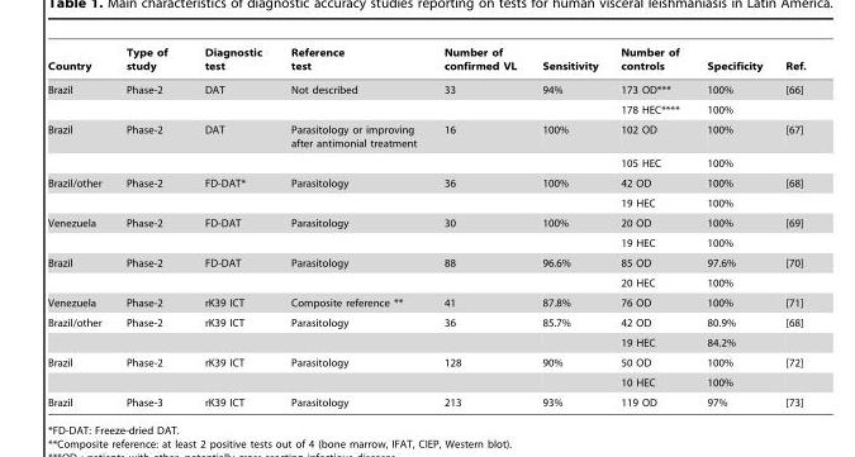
<table><thead><tr><td>Country</td><td>Type of study</td><td>Diagnostic test</td><td>Reference test</td><td>Number of confirmed VL</td><td>Sensitivity</td><td>Number of controls</td><td>Specificity</td><td>Ref.</td></tr></thead><tbody><tr><td rowspan="2">Brazil</td><td>Phase-2</td><td>DAT</td><td>Not described</td><td>33</td><td>94%</td><td>173 OD***</td><td>100%</td><td>[66]</td></tr><tr><td></td><td></td><td></td><td></td><td></td><td>178 HEC****</td><td>100%</td><td></td></tr><tr><td rowspan="2">Brazil</td><td>Phase-2</td><td>DAT</td><td>Parasitology or improving after antimonial treatment</td><td>16</td><td>100%</td><td>102 OD</td><td>100%</td><td>[67]</td></tr><tr><td></td><td></td><td></td><td></td><td></td><td>105 HEC</td><td>100%</td><td></td></tr><tr><td rowspan="2">Brazil/other</td><td>Phase-2</td><td>FD-DAT*</td><td>Parasitology</td><td>36</td><td>100%</td><td>42 OD</td><td>100%</td><td>[68]</td></tr><tr><td></td><td></td><td></td><td></td><td></td><td>19 HEC</td><td>100%</td><td></td></tr><tr><td rowspan="2">Venezuela</td><td>Phase-2</td><td>FD-DAT</td><td>Parasitology</td><td>30</td><td>100%</td><td>20 OD</td><td>100%</td><td>[69]</td></tr><tr><td></td><td></td><td></td><td></td><td></td><td>19 HEC</td><td>100%</td><td></td></tr><tr><td rowspan="2">Brazil</td><td>Phase-2</td><td>FD-DAT</td><td>Parasitology</td><td>88</td><td>96.6%</td><td>85 OD</td><td>97.6%</td><td>[70]</td></tr><tr><td></td><td></td><td></td><td></td><td></td><td>20 HEC</td><td>100%</td><td></td></tr><tr><td>Venezuela</td><td>Phase-2</td><td>rK39 ICT</td><td>Composite reference **</td><td>41</td><td>87.8%</td><td>76 OD</td><td>100%</td><td>[71]</td></tr><tr><td rowspan="2">Brazil/other</td><td>Phase-2</td><td>rK39 ICT</td><td>Parasitology</td><td>36</td><td>85.7%</td><td>42 OD</td><td>80.9%</td><td>[68]</td></tr><tr><td></td><td></td><td></td><td></td><td></td><td>19 HEC</td><td>84.2%</td><td></td></tr><tr><td rowspan="2">Brazil</td><td>Phase-2</td><td>rK39 ICT</td><td>Parasitology</td><td>128</td><td>90%</td><td>50 OD</td><td>100%</td><td>[72]</td></tr><tr><td></td><td></td><td></td><td></td><td></td><td>10 HEC</td><td>100%</td><td></td></tr><tr><td>Brazil</td><td>Phase-3</td><td>rK39 ICT</td><td>Parasitology</td><td>213</td><td>93%</td><td>119 OD</td><td>97%</td><td>[73]</td></tr></tbody></table>